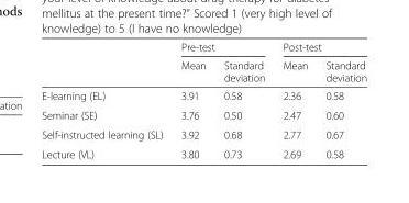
<table><thead><tr><td rowspan="2"></td><td colspan="2">Pre-test</td><td colspan="2">Post-test</td></tr><tr><td>Mean</td><td>Standard deviation</td><td>Mean</td><td>Standard deviation</td></tr></thead><tbody><tr><td>E-learning (EL)</td><td>3.91</td><td>0.58</td><td>2.36</td><td>0.58</td></tr><tr><td>Seminar (SE)</td><td>3.76</td><td>0.50</td><td>2.47</td><td>0.60</td></tr><tr><td>Self-instructed learning (SL)</td><td>3.92</td><td>0.68</td><td>2.77</td><td>0.67</td></tr><tr><td>Lecture (VL)</td><td>3.80</td><td>0.73</td><td>2.69</td><td>0.58</td></tr></tbody></table>